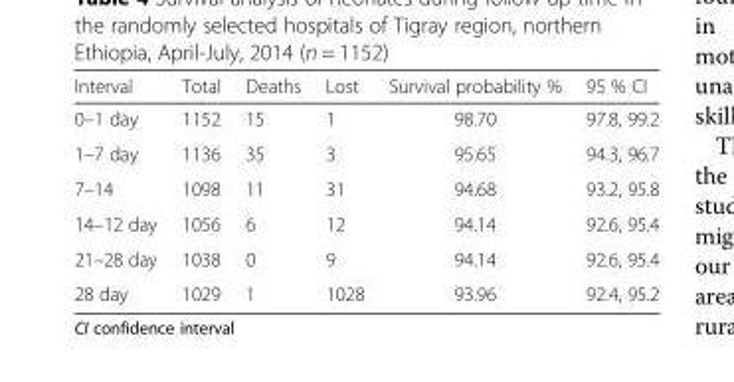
<table><thead><tr><td>Interval</td><td>Total</td><td>Deaths</td><td>Lost</td><td>Survival probability %</td><td>95 % CI</td></tr></thead><tbody><tr><td>0–1 day</td><td>1152</td><td>15</td><td>1</td><td>98.70</td><td>97.8, 99.2</td></tr><tr><td>1–7 day</td><td>1136</td><td>35</td><td>3</td><td>95.65</td><td>94.3, 96.7</td></tr><tr><td>7–14</td><td>1098</td><td>11</td><td>31</td><td>94.68</td><td>93.2, 95.8</td></tr><tr><td>14–12 day</td><td>1056</td><td>6</td><td>12</td><td>94.14</td><td>92.6, 95.4</td></tr><tr><td>21–28 day</td><td>1038</td><td>0</td><td>9</td><td>94.14</td><td>92.6, 95.4</td></tr><tr><td>28 day</td><td>1029</td><td>1</td><td>1028</td><td>93.96</td><td>92.4, 95.2</td></tr></tbody></table>